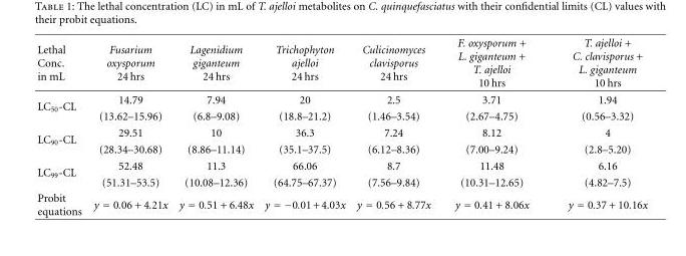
<table><thead><tr><td>Lethal Conc. in mL</td><td>Fusarium oxysporum 24 hrs</td><td>Lagenidium giganteum 24 hrs</td><td>Trichophyton ajelloi 24 hrs</td><td>Culicinomyces clavisporus 24 hrs</td><td>F. oxysporum + L. giganteum + T. ajelloi 10 hrs</td><td>T. ajelloi + C. clavisporus + L. giganteum 10 hrs</td></tr></thead><tbody><tr><td rowspan="2">LC<sub>50</sub>-CL</td><td>14.79</td><td>7.94</td><td>20</td><td>2.5</td><td>3.71</td><td>1.94</td></tr><tr><td>(13.62–15.96)</td><td>(6.8–9.08)</td><td>(18.8–21.2)</td><td>(1.46–3.54)</td><td>(2.67–4.75)</td><td>(0.56–3.32)</td></tr><tr><td rowspan="2">LC<sub>90</sub>-CL</td><td>29.51</td><td>10</td><td>36.3</td><td>7.24</td><td>8.12</td><td>4</td></tr><tr><td>(28.34–30.68)</td><td>(8.86–11.14)</td><td>(35.1–37.5)</td><td>(6.12–8.36)</td><td>(7.00–9.24)</td><td>(2.8–5.20)</td></tr><tr><td rowspan="2">LC<sub>99</sub>-CL</td><td>52.48</td><td>11.3</td><td>66.06</td><td>8.7</td><td>11.48</td><td>6.16</td></tr><tr><td>(51.31–53.5)</td><td>(10.08–12.36)</td><td>(64.75–67.37)</td><td>(7.56–9.84)</td><td>(10.31–12.65)</td><td>(4.82–7.5)</td></tr><tr><td>Probit equations</td><td>y = 0.06 + 4.21x</td><td>y = 0.51 + 6.48x</td><td>y = −0.01+4.03x</td><td>y = 0.56 + 8.77x</td><td>y = 0.41 + 8.06x</td><td>y = 0.37 + 10.16x</td></tr></tbody></table>